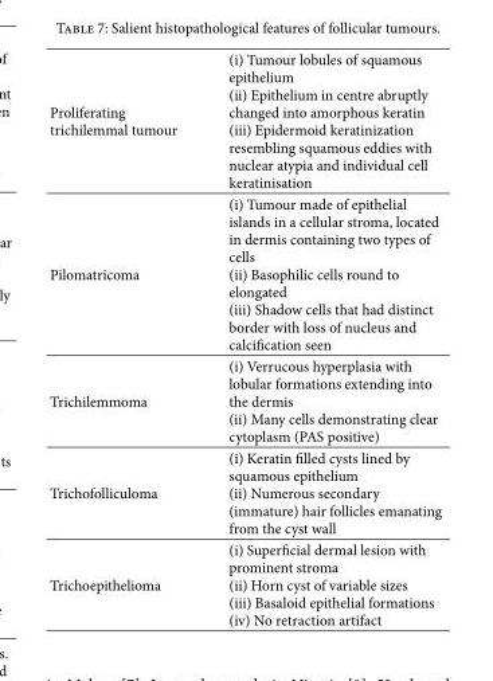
<table><tbody><tr><td>Proliferating trichilemmal tumour</td><td>(i) Tumour lobules of squamous epithelium (ii) Epithelium in centre abruptly changed into amorphous keratin (iii) Epidermoid keratinization resembling squamous eddies with nuclear atypia and individual cell keratinisation</td></tr><tr><td>Pilomatricoma</td><td>(i) Tumour made of epithelial islands in a cellular stroma, located in dermis containing two types of cells (ii) Basophilic cells round to elongated (iii) Shadow cells that had distinct border with loss of nucleus and calcification seen</td></tr><tr><td>Trichilemmoma</td><td>(i) Verrucous hyperplasia with lobular formations extending into the dermis (ii) Many cells demonstrating clear cytoplasm (PAS positive)</td></tr><tr><td>Trichofolliculoma</td><td>(i) Keratin filled cysts lined by squamous epithelium (ii) Numerous secondary (immature) hair follicles emanating from the cyst wall</td></tr><tr><td>Trichoepithelioma</td><td>(i) Superficial dermal lesion with prominent stroma (ii) Horn cyst of variable sizes (iii) Basaloid epithelial formations (iv) No retraction artifact</td></tr></tbody></table>